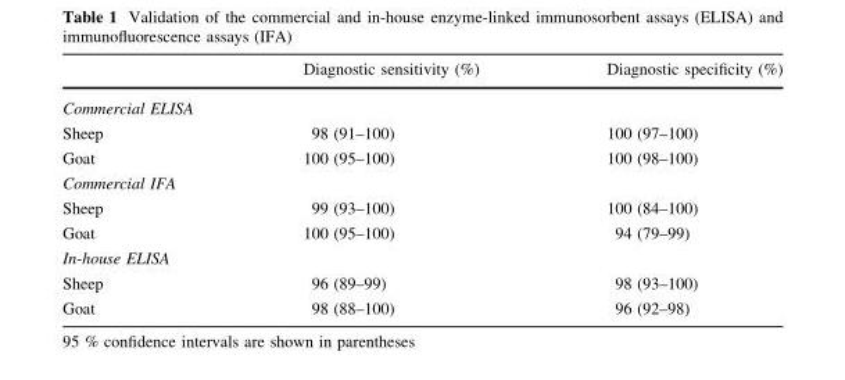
<table><thead><tr><td></td><td>Diagnostic sensitivity (%)</td><td>Diagnostic specificity (%)</td></tr></thead><tbody><tr><td colspan="3">Commercial ELISA</td></tr><tr><td>Sheep</td><td>98 (91–100)</td><td>100 (97–100)</td></tr><tr><td>Goat</td><td>100 (95–100)</td><td>100 (98–100)</td></tr><tr><td colspan="3">Commercial IFA</td></tr><tr><td>Sheep</td><td>99 (93–100)</td><td>100 (84–100)</td></tr><tr><td>Goat</td><td>100 (95–100)</td><td>94 (79–99)</td></tr><tr><td colspan="3">In-house ELISA</td></tr><tr><td>Sheep</td><td>96 (89–99)</td><td>98 (93–100)</td></tr><tr><td>Goat</td><td>98 (88–100)</td><td>96 (92–98)</td></tr></tbody></table>